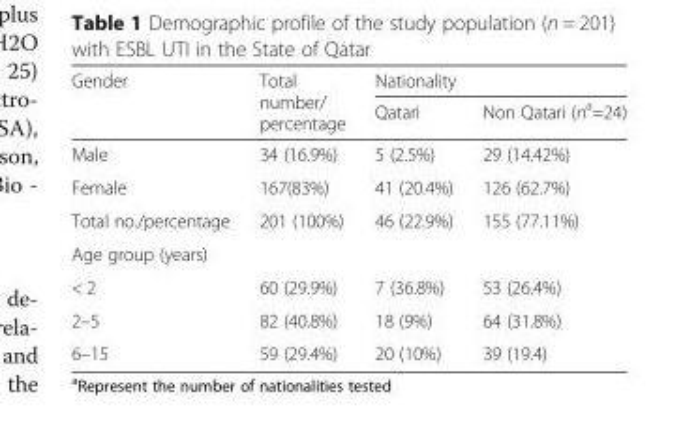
<table><thead><tr><td rowspan="2">Gender</td><td rowspan="2">Total number/ percentage</td><td colspan="2">Nationality</td></tr><tr><td>Qatari</td><td>Non Qatari (n<sup>a</sup>=24)</td></tr></thead><tbody><tr><td>Male</td><td>34 (16.9%)</td><td>5 (2.5%)</td><td>29 (14.42%)</td></tr><tr><td>Female</td><td>167(83%)</td><td>41 (20.4%)</td><td>126 (62.7%)</td></tr><tr><td>Total no./percentage</td><td>201 (100%)</td><td>46 (22.9%)</td><td>155 (77.11%)</td></tr><tr><td colspan="4">Age group (years)</td></tr><tr><td>&lt; 2</td><td>60 (29.9%)</td><td>7 (36.8%)</td><td>53 (26.4%)</td></tr><tr><td>2–5</td><td>82 (40.8%)</td><td>18 (9%)</td><td>64 (31.8%)</td></tr><tr><td>6–15</td><td>59 (29.4%)</td><td>20 (10%)</td><td>39 (19.4)</td></tr></tbody></table>